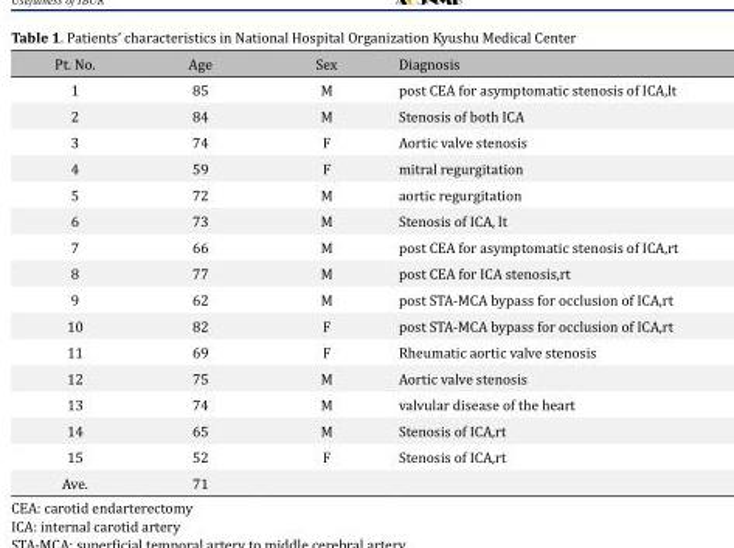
<table><thead><tr><td>Pt. No.</td><td>Age</td><td>Sex</td><td>Diagnosis</td></tr></thead><tbody><tr><td>1</td><td>85</td><td>M</td><td>post CEA for asymptomatic stenosis of ICA,lt</td></tr><tr><td>2</td><td>84</td><td>M</td><td>Stenosis of both ICA</td></tr><tr><td>3</td><td>74</td><td>F</td><td>Aortic valve stenosis</td></tr><tr><td>4</td><td>59</td><td>F</td><td>mitral regurgitation</td></tr><tr><td>5</td><td>72</td><td>M</td><td>aortic regurgitation</td></tr><tr><td>6</td><td>73</td><td>M</td><td>Stenosis of ICA, lt</td></tr><tr><td>7</td><td>66</td><td>M</td><td>post CEA for asymptomatic stenosis of ICA,rt</td></tr><tr><td>8</td><td>77</td><td>M</td><td>post CEA for ICA stenosis,rt</td></tr><tr><td>9</td><td>62</td><td>M</td><td>post STA-MCA bypass for occlusion of ICA,rt</td></tr><tr><td>10</td><td>82</td><td>F</td><td>post STA-MCA bypass for occlusion of ICA,rt</td></tr><tr><td>11</td><td>69</td><td>F</td><td>Rheumatic aortic valve stenosis</td></tr><tr><td>12</td><td>75</td><td>M</td><td>Aortic valve stenosis</td></tr><tr><td>13</td><td>74</td><td>M</td><td>valvular disease of the heart</td></tr><tr><td>14</td><td>65</td><td>M</td><td>Stenosis of ICA,rt</td></tr><tr><td>15</td><td>52</td><td>F</td><td>Stenosis of ICA,rt</td></tr><tr><td>Ave.</td><td>71</td><td></td><td></td></tr></tbody></table>